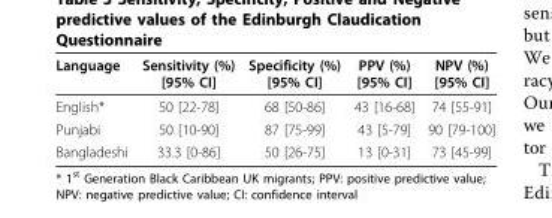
<table><thead><tr><td>Language</td><td>Sensitivity (%) [95% CI]</td><td>Specificity (%) [95% CI]</td><td>PPV (%) [95% CI]</td><td>NPV (%) [95% CI]</td></tr></thead><tbody><tr><td>English*</td><td>50 [22-78]</td><td>68 [50-86]</td><td>43 [16-68]</td><td>74 [55-91]</td></tr><tr><td>Punjabi</td><td>50 [10-90]</td><td>87 [75-99]</td><td>43 [5-79]</td><td>90 [79-100]</td></tr><tr><td>Bangladeshi</td><td>33.3 [0-86]</td><td>50 [26-75]</td><td>13 [0-31]</td><td>73 [45-99]</td></tr></tbody></table>